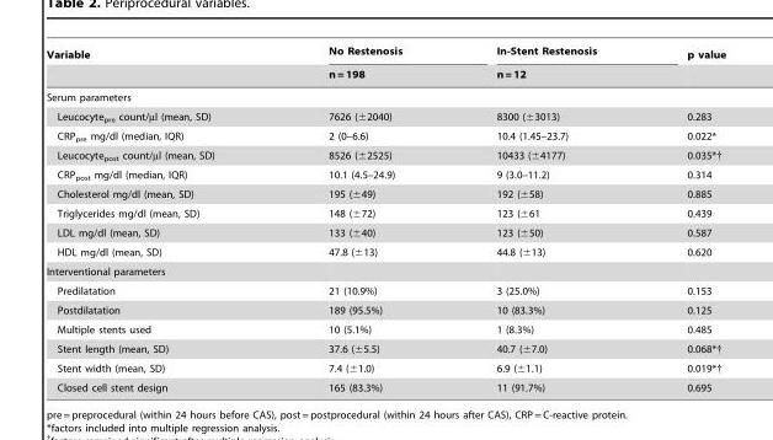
<table><thead><tr><td rowspan="2">Variable</td><td rowspan="2">No Restenosis n = 198</td><td rowspan="2">In-Stent Restenosis n = 12</td><td rowspan="2">p value</td></tr><tr></tr></thead><tbody><tr><td colspan="4">Serum parameters</td></tr><tr><td>Leucocyte<sub>pre</sub> count/µl (mean, SD)</td><td>7626 (±2040)</td><td>8300 (±3013)</td><td>0.283</td></tr><tr><td>CRP<sub>pre</sub> mg/dl (median, IQR)</td><td>2 (0–6.6)</td><td>10.4 (1.45–23.7)</td><td>0.022*</td></tr><tr><td>Leucocyte<sub>post</sub> count/µl (mean, SD)</td><td>8526 (±2525)</td><td>10433 (±4177)</td><td>0.035*†</td></tr><tr><td>CRP<sub>post</sub> mg/dl (median, IQR)</td><td>10.1 (4.5–24.9)</td><td>9 (3.0–11.2)</td><td>0.314</td></tr><tr><td>Cholesterol mg/dl (mean, SD)</td><td>195 (±49)</td><td>192 (±58)</td><td>0.885</td></tr><tr><td>Triglycerides mg/dl (mean, SD)</td><td>148 (±72)</td><td>123 (±61</td><td>0.439</td></tr><tr><td>LDL mg/dl (mean, SD)</td><td>133 (±40)</td><td>123 (±50)</td><td>0.587</td></tr><tr><td>HDL mg/dl (mean, SD)</td><td>47.8 (±13)</td><td>44.8 (±13)</td><td>0.620</td></tr><tr><td colspan="4">Interventional parameters</td></tr><tr><td>Predilatation</td><td>21 (10.9%)</td><td>3 (25.0%)</td><td>0.153</td></tr><tr><td>Postdilatation</td><td>189 (95.5%)</td><td>10 (83.3%)</td><td>0.125</td></tr><tr><td>Multiple stents used</td><td>10 (5.1%)</td><td>1 (8.3%)</td><td>0.485</td></tr><tr><td>Stent length (mean, SD)</td><td>37.6 (±5.5)</td><td>40.7 (±7.0)</td><td>0.068*†</td></tr><tr><td>Stent width (mean, SD)</td><td>7.4 (±1.0)</td><td>6.9 (±1.1)</td><td>0.019*†</td></tr><tr><td>Closed cell stent design</td><td>165 (83.3%)</td><td>11 (91.7%)</td><td>0.695</td></tr></tbody></table>